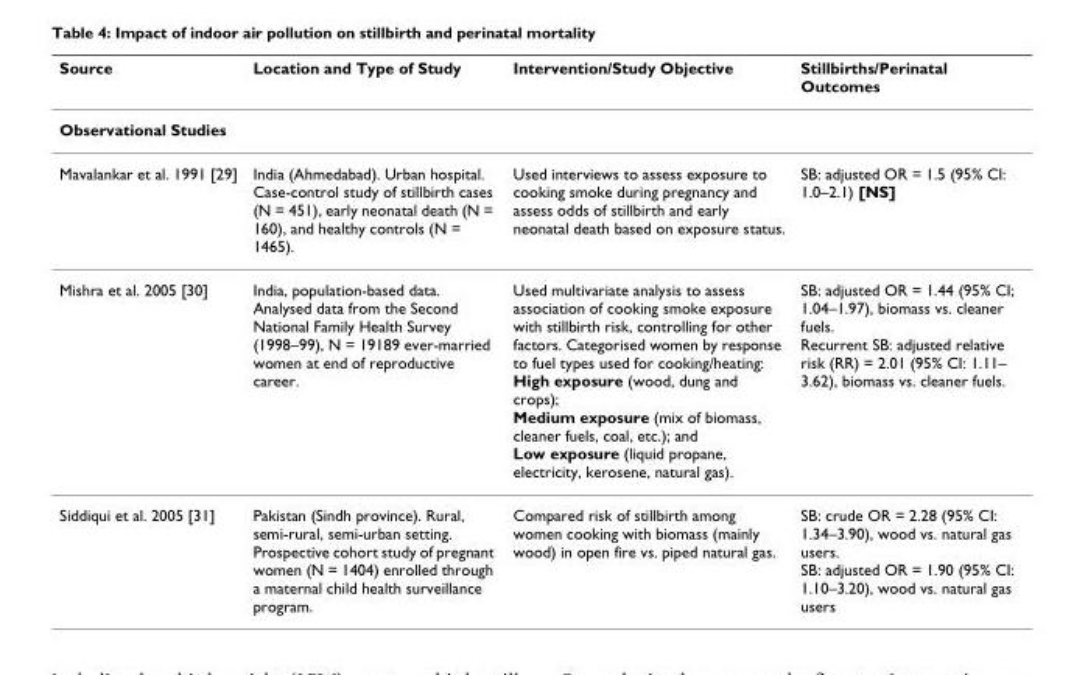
<table><thead><tr><td>Source</td><td>Location and Type of Study</td><td>Intervention/Study Objective</td><td>Stillbirths/Perinatal Outcomes</td></tr></thead><tbody><tr><td colspan="4">Observational Studies</td></tr><tr><td>Mavalankar et al. 1991 [29]</td><td>India (Ahmedabad). Urban hospital. Case-control study of stillbirth cases (N = 451), early neonatal death (N = 160), and healthy controls (N = 1465).</td><td>Used interviews to assess exposure to cooking smoke during pregnancy and assess odds of stillbirth and early neonatal death based on exposure status.</td><td>SB: adjusted OR = 1.5 (95% CI: 1.0–2.1) [NS]</td></tr><tr><td>Mishra et al. 2005 [30]</td><td>India, population-based data. Analysed data from the Second National Family Health Survey (1998–99), N = 19189 ever-married women at end of reproductive career.</td><td>Used multivariate analysis to assess association of cooking smoke exposure with stillbirth risk, controlling for other factors. Categorised women by response to fuel types used for cooking/heating: High exposure (wood, dung and crops); Medium exposure (mix of biomass, cleaner fuels, coal, etc.); and Low exposure (liquid propane, electricity, kerosene, natural gas).</td><td>SB: adjusted OR = 1.44 (95% CI; 1.04–1.97), biomass vs. cleaner fuels. Recurrent SB: adjusted relative risk (RR) = 2.01 (95% CI: 1.11– 3.62), biomass vs. cleaner fuels.</td></tr><tr><td>Siddiqui et al. 2005 [31]</td><td>Pakistan (Sindh province). Rural, semi-rural, semi-urban setting. Prospective cohort study of pregnant women (N = 1404) enrolled through a maternal child health surveillance program.</td><td>Compared risk of stillbirth among women cooking with biomass (mainly wood) in open fire vs. piped natural gas.</td><td>SB: crude OR = 2.28 (95% CI: 1.34–3.90), wood vs. natural gas users. SB: adjusted OR = 1.90 (95% CI: 1.10–3.20), wood vs. natural gas users</td></tr></tbody></table>